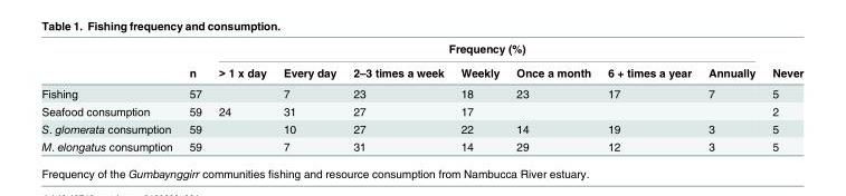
<table><thead><tr><td rowspan="2"></td><td rowspan="2">n</td><td colspan="7">Frequency (%)</td><td rowspan="2">Never</td></tr><tr><td>&gt; 1 x day</td><td>Every day</td><td>2–3 times a week</td><td>Weekly</td><td>Once a month</td><td>6 + times a year</td><td>Annually</td></tr></thead><tbody><tr><td>Fishing</td><td>57</td><td></td><td>7</td><td>23</td><td>18</td><td>23</td><td>17</td><td>7</td><td>5</td></tr><tr><td>Seafood consumption</td><td>59</td><td>24</td><td>31</td><td>27</td><td>17</td><td></td><td></td><td></td><td>2</td></tr><tr><td>S. glomerata consumption</td><td>59</td><td></td><td>10</td><td>27</td><td>22</td><td>14</td><td>19</td><td>3</td><td>5</td></tr><tr><td>M. elongatus consumption</td><td>59</td><td></td><td>7</td><td>31</td><td>14</td><td>29</td><td>12</td><td>3</td><td>5</td></tr></tbody></table>